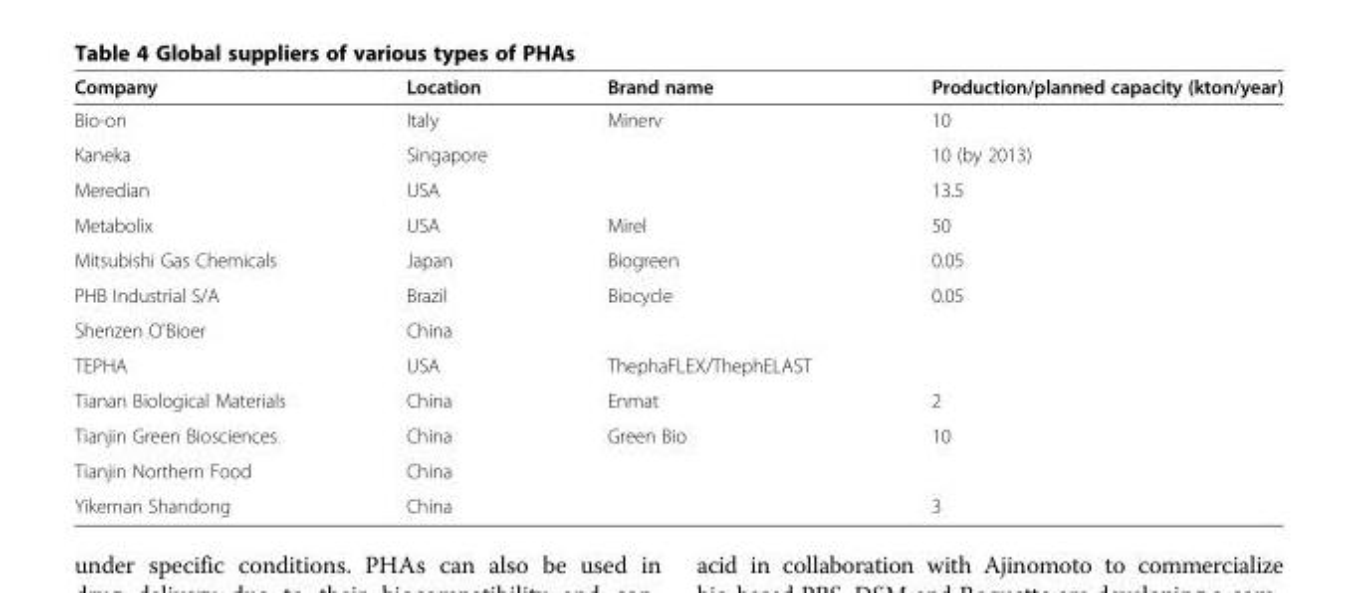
<table><thead><tr><td>Company</td><td>Location</td><td>Brand name</td><td>Production/planned capacity (kton/year)</td></tr></thead><tbody><tr><td>Bio-on</td><td>Italy</td><td>Minerv</td><td>10</td></tr><tr><td>Kaneka</td><td>Singapore</td><td></td><td>10 (by 2013)</td></tr><tr><td>Meredian</td><td>USA</td><td></td><td>13.5</td></tr><tr><td>Metabolix</td><td>USA</td><td>Mirel</td><td>50</td></tr><tr><td>Mitsubishi Gas Chemicals</td><td>Japan</td><td>Biogreen</td><td>0.05</td></tr><tr><td>PHB Industrial S/A</td><td>Brazil</td><td>Biocycle</td><td>0.05</td></tr><tr><td>Shenzen O&#x27;Bioer</td><td>China</td><td></td><td></td></tr><tr><td>TEPHA</td><td>USA</td><td>ThephaFLEX/ThephELAST</td><td></td></tr><tr><td>Tianan Biological Materials</td><td>China</td><td>Enmat</td><td>2</td></tr><tr><td>Tianjin Green Biosciences</td><td>China</td><td>Green Bio</td><td>10</td></tr><tr><td>Tianjin Northern Food</td><td>China</td><td></td><td></td></tr><tr><td>Yikeman Shandong</td><td>China</td><td></td><td>3</td></tr></tbody></table>